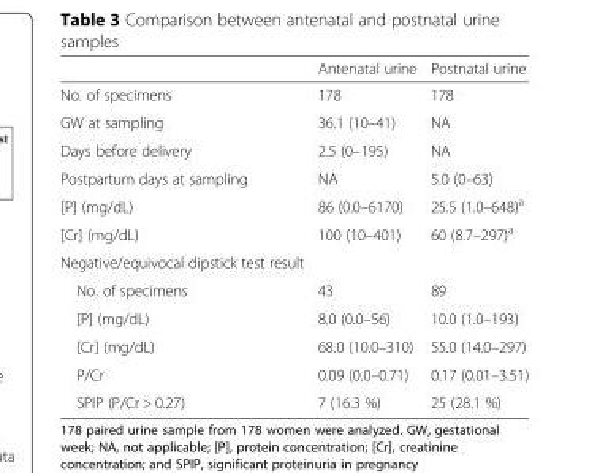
<table><thead><tr><td></td><td>Antenatal urine</td><td>Postnatal urine</td></tr></thead><tbody><tr><td>No. of specimens</td><td>178</td><td>178</td></tr><tr><td>GW at sampling</td><td>36.1 (10–41)</td><td>NA</td></tr><tr><td>Days before delivery</td><td>2.5 (0–195)</td><td>NA</td></tr><tr><td>Postpartum days at sampling</td><td>NA</td><td>5.0 (0–63)</td></tr><tr><td>[P] (mg/dL)</td><td>86 (0.0–6170)</td><td>25.5 (1.0–648)<sup>a</sup></td></tr><tr><td>[Cr] (mg/dL)</td><td>100 (10–401)</td><td>60 (8.7–297)<sup>a</sup></td></tr><tr><td colspan="3">Negative/equivocal dipstick test result</td></tr><tr><td>No. of specimens</td><td>43</td><td>89</td></tr><tr><td>[P] (mg/dL)</td><td>8.0 (0.0–56)</td><td>10.0 (1.0–193)</td></tr><tr><td>[Cr] (mg/dL)</td><td>68.0 (10.0–310)</td><td>55.0 (14.0–297)</td></tr><tr><td>P/Cr</td><td>0.09 (0.0–0.71)</td><td>0.17 (0.01–3.51)</td></tr><tr><td>SPIP (P/Cr &gt; 0.27)</td><td>7 (16.3 %)</td><td>25 (28.1 %)</td></tr></tbody></table>